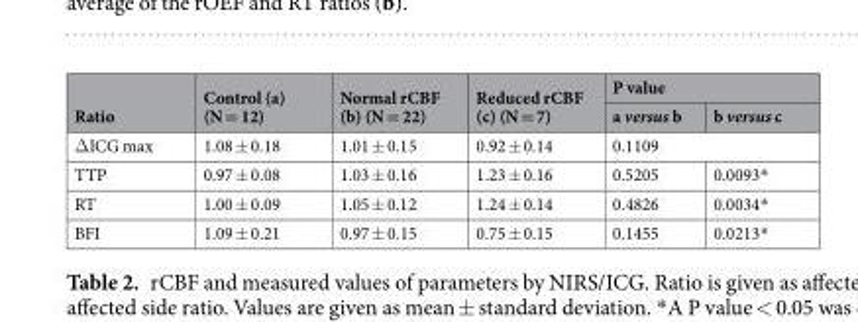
<table><thead><tr><td rowspan="2">Ratio</td><td rowspan="2">Control (a) (N = 12)</td><td rowspan="2">Normal rCBF (b) (N = 22)</td><td rowspan="2">Reduced rCBF (c) (N = 7)</td><td colspan="2">P value</td></tr><tr><td>a versus b</td><td>b versus c</td></tr></thead><tbody><tr><td>ΔICG max</td><td>1.08 ± 0.18</td><td>1.01 ± 0.15</td><td>0.92 ± 0.14</td><td colspan="2">0.1109</td></tr><tr><td>TTP</td><td>0.97 ± 0.08</td><td>1.03 ± 0.16</td><td>1.23 ± 0.16</td><td>0.5205</td><td>0.0093*</td></tr><tr><td>RT</td><td>1.00 ± 0.09</td><td>1.05 ± 0.12</td><td>1.24 ± 0.14</td><td>0.4826</td><td>0.0034*</td></tr><tr><td>BFI</td><td>1.09 ± 0.21</td><td>0.97 ± 0.15</td><td>0.75 ± 0.15</td><td>0.1455</td><td>0.0213*</td></tr></tbody></table>